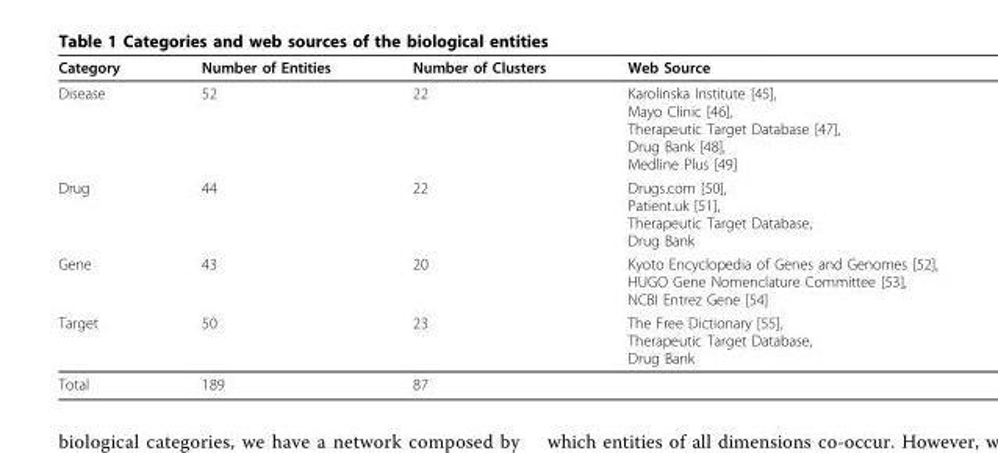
<table><thead><tr><td>Category</td><td>Number of Entities</td><td>Number of Clusters</td><td>Web Source</td></tr></thead><tbody><tr><td>Disease</td><td>52</td><td>22</td><td>Karolinska Institute [45], Mayo Clinic [46], Therapeutic Target Database [47], Drug Bank [48], Medline Plus [49]</td></tr><tr><td>Drug</td><td>44</td><td>22</td><td>Drugs.com [50], Patient.uk [51], Therapeutic Target Database, Drug Bank</td></tr><tr><td>Gene</td><td>43</td><td>20</td><td>Kyoto Encyclopedia of Genes and Genomes [52], HUGO Gene Nomenclature Committee [53], NCBI Entrez Gene [54]</td></tr><tr><td>Target</td><td>50</td><td>23</td><td>The Free Dictionary [55], Therapeutic Target Database, Drug Bank</td></tr><tr><td>Total</td><td>189</td><td>87</td><td></td></tr></tbody></table>